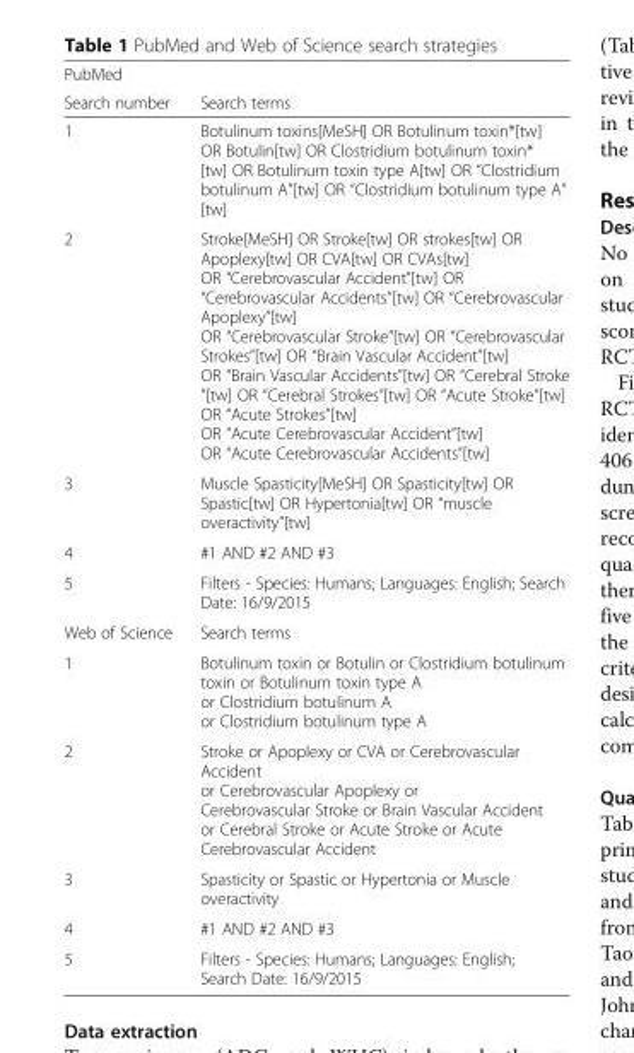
<table><thead><tr><td rowspan="2">PubMed Search number</td><td rowspan="2">Search terms</td></tr><tr></tr></thead><tbody><tr><td>1</td><td>Botulinum toxins[MeSH] OR Botulinum toxin*[tw] OR Botulin[tw] OR Clostridium botulinum toxin* [tw] OR Botulinum toxin type A[tw] OR “Clostridium botulinum A”[tw] OR “Clostridium botulinum type A” [tw]</td></tr><tr><td>2</td><td>Stroke[MeSH] OR Stroke[tw] OR strokes[tw] OR Apoplexy[tw] OR CVA[tw] OR CVAs[tw] OR “Cerebrovascular Accident”[tw] OR “Cerebrovascular Accidents”[tw] OR “Cerebrovascular Apoplexy”[tw] OR “Cerebrovascular Stroke”[tw] OR “Cerebrovascular Strokes”[tw] OR “Brain Vascular Accident”[tw] OR “Brain Vascular Accidents”[tw] OR “Cerebral Stroke ”[tw] OR “Cerebral Strokes”[tw] OR “Acute Stroke”[tw] OR “Acute Strokes”[tw] OR “Acute Cerebrovascular Accident”[tw] OR “Acute Cerebrovascular Accidents”[tw]</td></tr><tr><td>3</td><td>Muscle Spasticity[MeSH] OR Spasticity[tw] OR Spastic[tw] OR Hypertonia[tw] OR “muscle overactivity”[tw]</td></tr><tr><td>4</td><td>#1 AND #2 AND #3</td></tr><tr><td>5</td><td>Filters - Species: Humans; Languages: English; Search Date: 16/9/2015</td></tr><tr><td>Web of Science</td><td>Search terms</td></tr><tr><td>1</td><td>Botulinum toxin or Botulin or Clostridium botulinum toxin or Botulinum toxin type A or Clostridium botulinum A or Clostridium botulinum type A</td></tr><tr><td>2</td><td>Stroke or Apoplexy or CVA or Cerebrovascular Accident or Cerebrovascular Apoplexy or Cerebrovascular Stroke or Brain Vascular Accident or Cerebral Stroke or Acute Stroke or Acute Cerebrovascular Accident</td></tr><tr><td>3</td><td>Spasticity or Spastic or Hypertonia or Muscle overactivity</td></tr><tr><td>4</td><td>#1 AND #2 AND #3</td></tr><tr><td>5</td><td>Filters - Species: Humans; Languages: English; Search Date: 16/9/2015</td></tr></tbody></table>